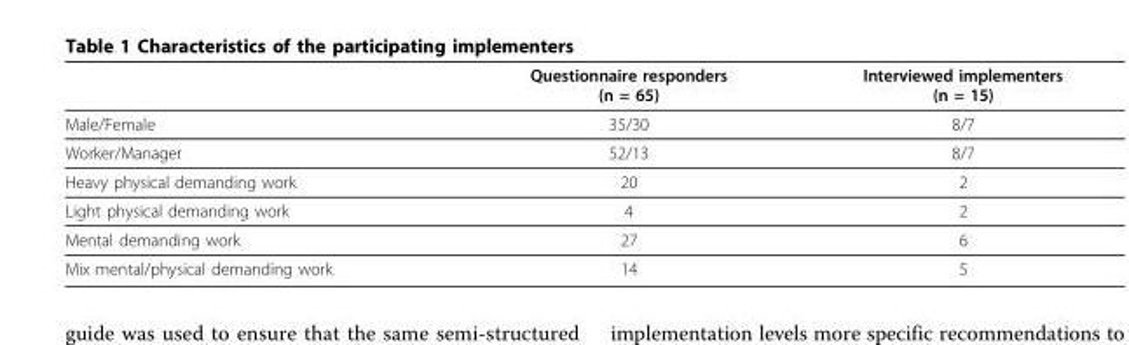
<table><thead><tr><td></td><td>Questionnaire responders (n = 65)</td><td>Interviewed implementers (n = 15)</td></tr></thead><tbody><tr><td>Male/Female</td><td>35/30</td><td>8/7</td></tr><tr><td>Worker/Manager</td><td>52/13</td><td>8/7</td></tr><tr><td>Heavy physical demanding work</td><td>20</td><td>2</td></tr><tr><td>Light physical demanding work</td><td>4</td><td>2</td></tr><tr><td>Mental demanding work</td><td>27</td><td>6</td></tr><tr><td>Mix mental/physical demanding work</td><td>14</td><td>5</td></tr></tbody></table>